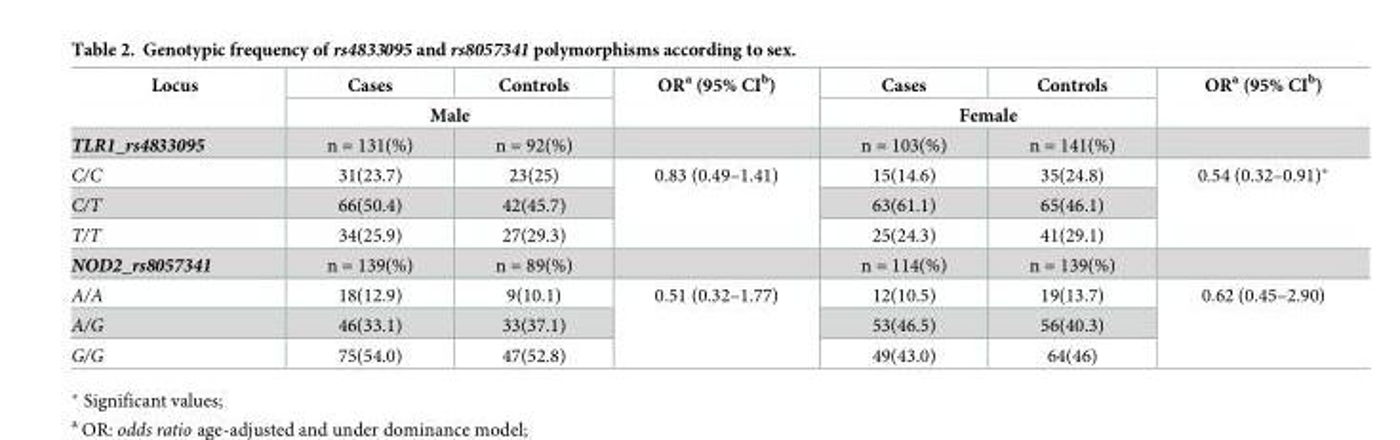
<table><thead><tr><td rowspan="2">Locus</td><td>Cases</td><td>Controls</td><td rowspan="2">OR<sup>a</sup> (95% CI<sup>b</sup>)</td><td>Cases</td><td>Controls</td><td rowspan="2">OR<sup>a</sup> (95% CI<sup>b</sup>)</td></tr><tr><td colspan="2">Male</td><td colspan="2">Female</td></tr></thead><tbody><tr><td>TLR1_rs4833095</td><td>n = 131(%)</td><td>n = 92(%)</td><td></td><td>n = 103(%)</td><td>n = 141(%)</td><td></td></tr><tr><td>C/C</td><td>31(23.7)</td><td>23(25)</td><td rowspan="3">0.83 (0.49–1.41)</td><td>15(14.6)</td><td>35(24.8)</td><td rowspan="3">0.54 (0.32–0.91)*</td></tr><tr><td>C/T</td><td>66(50.4)</td><td>42(45.7)</td><td>63(61.1)</td><td>65(46.1)</td></tr><tr><td>T/T</td><td>34(25.9)</td><td>27(29.3)</td><td>25(24.3)</td><td>41(29.1)</td></tr><tr><td>NOD2_rs8057341</td><td>n = 139(%)</td><td>n = 89(%)</td><td></td><td>n = 114(%)</td><td>n = 139(%)</td><td></td></tr><tr><td>A/A</td><td>18(12.9)</td><td>9(10.1)</td><td rowspan="3">0.51 (0.32–1.77)</td><td>12(10.5)</td><td>19(13.7)</td><td rowspan="3">0.62 (0.45–2.90)</td></tr><tr><td>A/G</td><td>46(33.1)</td><td>33(37.1)</td><td>53(46.5)</td><td>56(40.3)</td></tr><tr><td>G/G</td><td>75(54.0)</td><td>47(52.8)</td><td>49(43.0)</td><td>64(46)</td></tr></tbody></table>